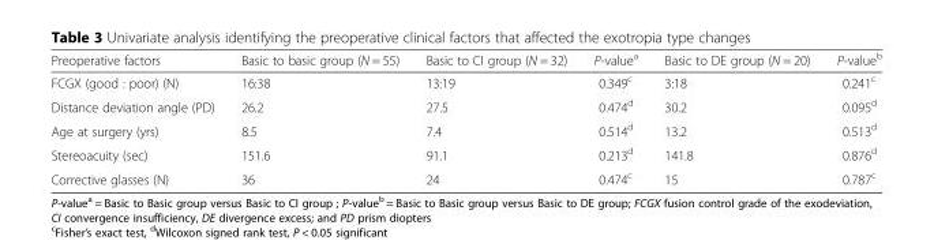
<table><thead><tr><td>Preoperative factors</td><td>Basic to basic group (N = 55)</td><td>Basic to CI group (N = 32)</td><td>P-value<sup>a</sup></td><td>Basic to DE group (N = 20)</td><td>P-value<sup>b</sup></td></tr></thead><tbody><tr><td>FCGX (good : poor) (N)</td><td>16:38</td><td>13:19</td><td>0.349<sup>c</sup></td><td>3:18</td><td>0.241<sup>c</sup></td></tr><tr><td>Distance deviation angle (PD)</td><td>26.2</td><td>27.5</td><td>0.474<sup>d</sup></td><td>30.2</td><td>0.095<sup>d</sup></td></tr><tr><td>Age at surgery (yrs)</td><td>8.5</td><td>7.4</td><td>0.514<sup>d</sup></td><td>13.2</td><td>0.513<sup>d</sup></td></tr><tr><td>Stereoacuity (sec)</td><td>151.6</td><td>91.1</td><td>0.213<sup>d</sup></td><td>141.8</td><td>0.876<sup>d</sup></td></tr><tr><td>Corrective glasses (N)</td><td>36</td><td>24</td><td>0.474<sup>c</sup></td><td>15</td><td>0.787<sup>c</sup></td></tr></tbody></table>